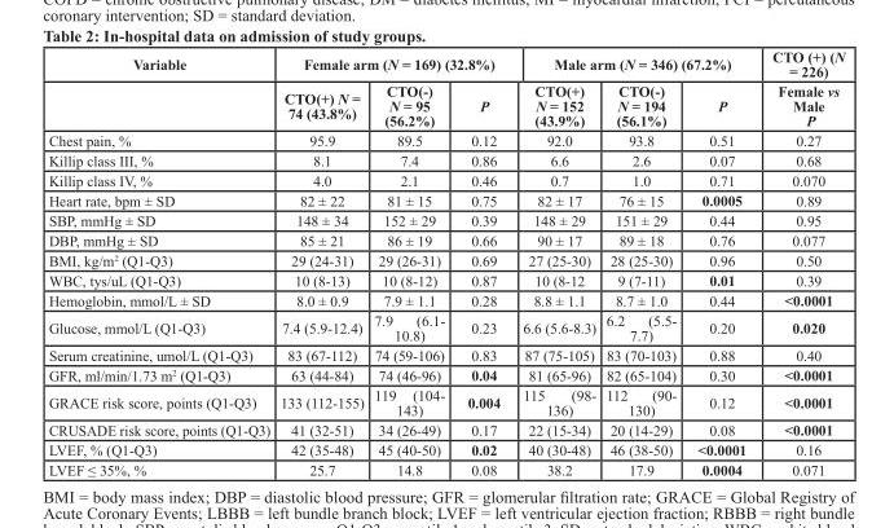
<table><thead><tr><td rowspan="2">Variable</td><td colspan="3">Female arm (N = 169) (32.8%)</td><td colspan="3">Male arm (N = 346) (67.2%)</td><td rowspan="2">CTO (+) (N = 226) Female vs Male P</td></tr><tr><td>CTO(+) N = 74 (43.8%)</td><td>CTO(-) N = 95 (56.2%)</td><td>P</td><td>CTO(+) N = 152 (43.9%)</td><td>CTO(-) N = 194 (56.1%)</td><td>P</td></tr></thead><tbody><tr><td>Chest pain, %</td><td>95.9</td><td>89.5</td><td>0.12</td><td>92.0</td><td>93.8</td><td>0.51</td><td>0.27</td></tr><tr><td>Killip class III, %</td><td>8.1</td><td>7.4</td><td>0.86</td><td>6.6</td><td>2.6</td><td>0.07</td><td>0.68</td></tr><tr><td>Killip class IV, %</td><td>4.0</td><td>2.1</td><td>0.46</td><td>0.7</td><td>1.0</td><td>0.71</td><td>0.070</td></tr><tr><td>Heart rate, bpm ± SD</td><td>82 ± 22</td><td>81 ± 15</td><td>0.75</td><td>82 ± 17</td><td>76 ± 15</td><td>0.0005</td><td>0.89</td></tr><tr><td>SBP, mmHg ± SD</td><td>148 ± 34</td><td>152 ± 29</td><td>0.39</td><td>148 ± 29</td><td>151 ± 29</td><td>0.44</td><td>0.95</td></tr><tr><td>DBP, mmHg ± SD</td><td>85 ± 21</td><td>86 ± 19</td><td>0.66</td><td>90 ± 17</td><td>89 ± 18</td><td>0.76</td><td>0.077</td></tr><tr><td>BMI, kg/m<sup>2</sup> (Q1-Q3)</td><td>29 (24-31)</td><td>29 (26-31)</td><td>0.69</td><td>27 (25-30)</td><td>28 (25-30)</td><td>0.96</td><td>0.50</td></tr><tr><td>WBC, tys/uL (Q1-Q3)</td><td>10 (8-13)</td><td>10 (8-12)</td><td>0.87</td><td>10 (8-12</td><td>9 (7-11)</td><td>0.01</td><td>0.39</td></tr><tr><td>Hemoglobin, mmol/L ± SD</td><td>8.0 ± 0.9</td><td>7.9 ± 1.1</td><td>0.28</td><td>8.8 ± 1.1</td><td>8.7 ± 1.0</td><td>0.44</td><td>&lt;0.0001</td></tr><tr><td>Glucose, mmol/L (Q1-Q3)</td><td>7.4 (5.9-12.4)</td><td>7.9 (6.1- 10.8)</td><td>0.23</td><td>6.6 (5.6-8.3)</td><td>6.2 (5.5- 7.7)</td><td>0.20</td><td>0.020</td></tr><tr><td>Serum creatinine, umol/L (Q1-Q3)</td><td>83 (67-112)</td><td>74 (59-106)</td><td>0.83</td><td>87 (75-105)</td><td>83 (70-103)</td><td>0.88</td><td>0.40</td></tr><tr><td>GFR, ml/min/1.73 m<sup>2</sup> (Q1-Q3)</td><td>63 (44-84)</td><td>74 (46-96)</td><td>0.04</td><td>81 (65-96)</td><td>82 (65-104)</td><td>0.30</td><td>&lt;0.0001</td></tr><tr><td>GRACE risk score, points (Q1-Q3)</td><td>133 (112-155)</td><td>119 (104- 143)</td><td>0.004</td><td>115 (98- 136)</td><td>112 (90- 130)</td><td>0.12</td><td>&lt;0.0001</td></tr><tr><td>CRUSADE risk score, points (Q1-Q3)</td><td>41 (32-51)</td><td>34 (26-49)</td><td>0.17</td><td>22 (15-34)</td><td>20 (14-29)</td><td>0.08</td><td>&lt;0.0001</td></tr><tr><td>LVEF, % (Q1-Q3)</td><td>42 (35-48)</td><td>45 (40-50)</td><td>0.02</td><td>40 (30-48)</td><td>46 (38-50)</td><td>&lt;0.0001</td><td>0.16</td></tr><tr><td>LVEF ≤ 35%, %</td><td>25.7</td><td>14.8</td><td>0.08</td><td>38.2</td><td>17.9</td><td>0.0004</td><td>0.071</td></tr></tbody></table>